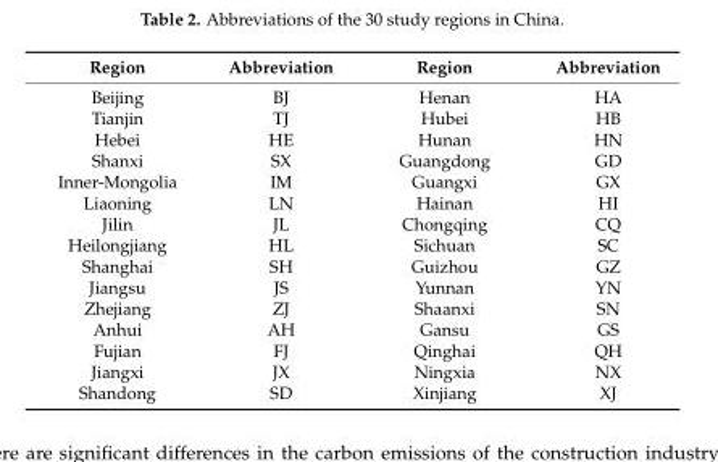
<table><thead><tr><td>Region</td><td>Abbreviation</td><td>Region</td><td>Abbreviation</td></tr></thead><tbody><tr><td>Beijing</td><td>BJ</td><td>Henan</td><td>HA</td></tr><tr><td>Tianjin</td><td>TJ</td><td>Hubei</td><td>HB</td></tr><tr><td>Hebei</td><td>HE</td><td>Hunan</td><td>HN</td></tr><tr><td>Shanxi</td><td>SX</td><td>Guangdong</td><td>GD</td></tr><tr><td>Inner-Mongolia</td><td>IM</td><td>Guangxi</td><td>GX</td></tr><tr><td>Liaoning</td><td>LN</td><td>Hainan</td><td>HI</td></tr><tr><td>Jilin</td><td>JL</td><td>Chongqing</td><td>CQ</td></tr><tr><td>Heilongjiang</td><td>HL</td><td>Sichuan</td><td>SC</td></tr><tr><td>Shanghai</td><td>SH</td><td>Guizhou</td><td>GZ</td></tr><tr><td>Jiangsu</td><td>JS</td><td>Yunnan</td><td>YN</td></tr><tr><td>Zhejiang</td><td>ZJ</td><td>Shaanxi</td><td>SN</td></tr><tr><td>Anhui</td><td>AH</td><td>Gansu</td><td>GS</td></tr><tr><td>Fujian</td><td>FJ</td><td>Qinghai</td><td>QH</td></tr><tr><td>Jiangxi</td><td>JX</td><td>Ningxia</td><td>NX</td></tr><tr><td>Shandong</td><td>SD</td><td>Xinjiang</td><td>XJ</td></tr></tbody></table>